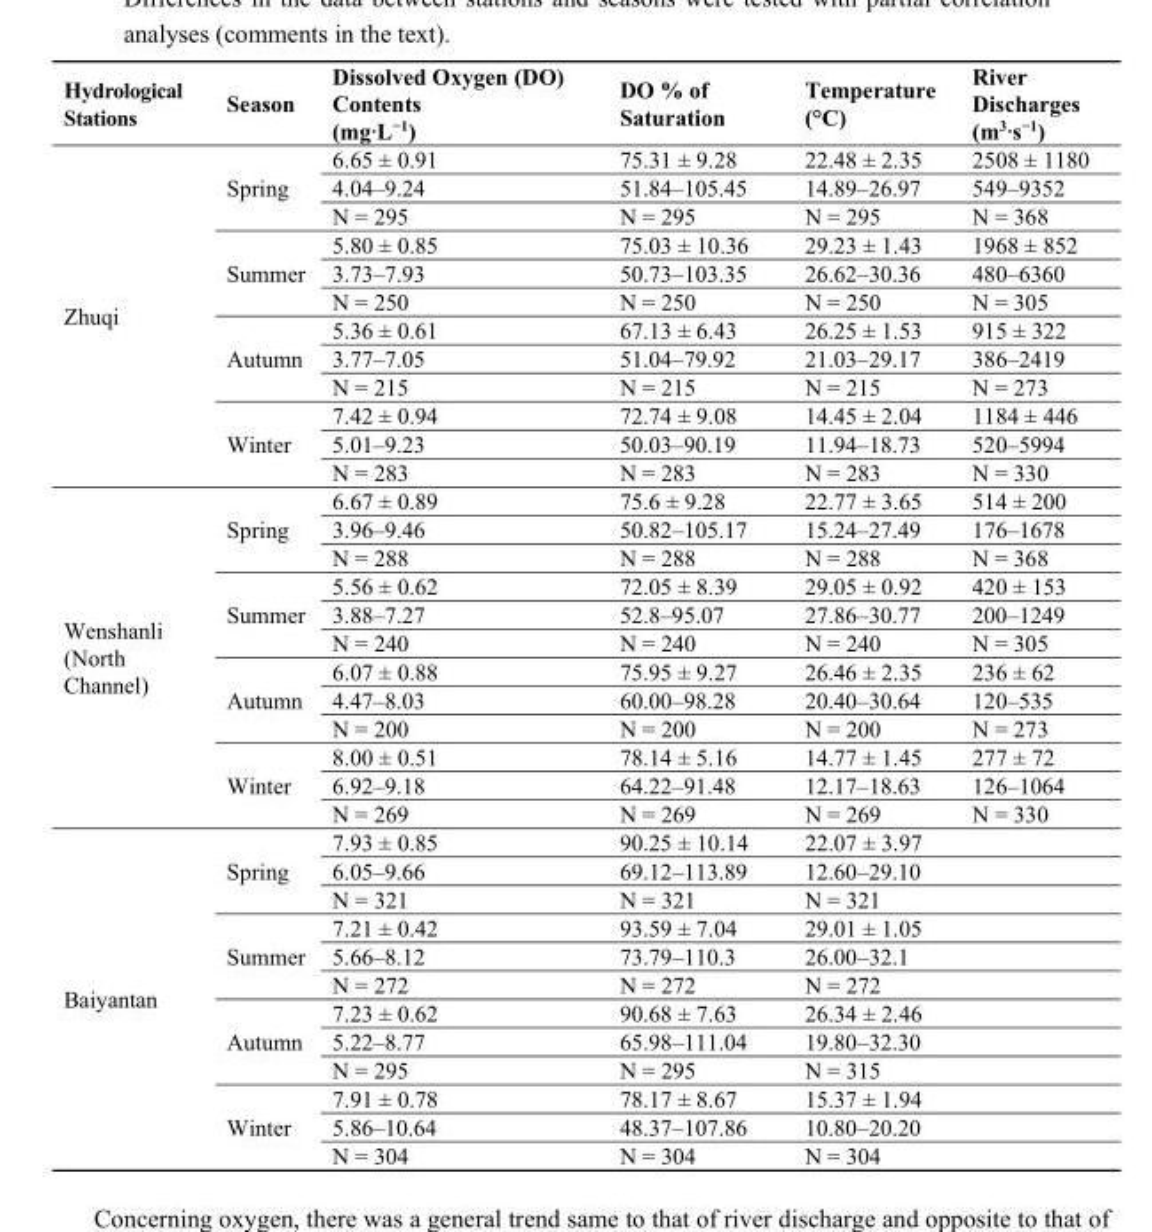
<table><thead><tr><td>Hydrological Stations</td><td>Season</td><td>Dissolved Oxygen (DO) Contents (mg·L<sup>−1</sup>)</td><td>DO % of Saturation</td><td>Temperature (°C)</td><td>River Discharges (m<sup>3</sup>·s<sup>−1</sup>)</td></tr></thead><tbody><tr><td rowspan="12">Zhuqi</td><td rowspan="3">Spring</td><td>6.65 ± 0.91</td><td>75.31 ± 9.28</td><td>22.48 ± 2.35</td><td>2508 ± 1180</td></tr><tr><td>4.04–9.24</td><td>51.84–105.45</td><td>14.89–26.97</td><td>549–9352</td></tr><tr><td>N = 295</td><td>N = 295</td><td>N = 295</td><td>N = 368</td></tr><tr><td rowspan="3">Summer</td><td>5.80 ± 0.85</td><td>75.03 ± 10.36</td><td>29.23 ± 1.43</td><td>1968 ± 852</td></tr><tr><td>3.73–7.93</td><td>50.73–103.35</td><td>26.62–30.36</td><td>480–6360</td></tr><tr><td>N = 250</td><td>N = 250</td><td>N = 250</td><td>N = 305</td></tr><tr><td rowspan="3">Autumn</td><td>5.36 ± 0.61</td><td>67.13 ± 6.43</td><td>26.25 ± 1.53</td><td>915 ± 322</td></tr><tr><td>3.77–7.05</td><td>51.04–79.92</td><td>21.03–29.17</td><td>386–2419</td></tr><tr><td>N = 215</td><td>N = 215</td><td>N = 215</td><td>N = 273</td></tr><tr><td rowspan="3">Winter</td><td>7.42 ± 0.94</td><td>72.74 ± 9.08</td><td>14.45 ± 2.04</td><td>1184 ± 446</td></tr><tr><td>5.01–9.23</td><td>50.03–90.19</td><td>11.94–18.73</td><td>520–5994</td></tr><tr><td>N = 283</td><td>N = 283</td><td>N = 283</td><td>N = 330</td></tr><tr><td rowspan="12">Wenshanli (North Channel)</td><td rowspan="3">Spring</td><td>6.67 ± 0.89</td><td>75.6 ± 9.28</td><td>22.77 ± 3.65</td><td>514 ± 200</td></tr><tr><td>3.96–9.46</td><td>50.82–105.17</td><td>15.24–27.49</td><td>176–1678</td></tr><tr><td>N = 288</td><td>N = 288</td><td>N = 288</td><td>N = 368</td></tr><tr><td rowspan="3">Summer</td><td>5.56 ± 0.62</td><td>72.05 ± 8.39</td><td>29.05 ± 0.92</td><td>420 ± 153</td></tr><tr><td>3.88–7.27</td><td>52.8–95.07</td><td>27.86–30.77</td><td>200–1249</td></tr><tr><td>N = 240</td><td>N = 240</td><td>N = 240</td><td>N = 305</td></tr><tr><td rowspan="3">Autumn</td><td>6.07 ± 0.88</td><td>75.95 ± 9.27</td><td>26.46 ± 2.35</td><td>236 ± 62</td></tr><tr><td>4.47–8.03</td><td>60.00–98.28</td><td>20.40–30.64</td><td>120–535</td></tr><tr><td>N = 200</td><td>N = 200</td><td>N = 200</td><td>N = 273</td></tr><tr><td rowspan="3">Winter</td><td>8.00 ± 0.51</td><td>78.14 ± 5.16</td><td>14.77 ± 1.45</td><td>277 ± 72</td></tr><tr><td>6.92–9.18</td><td>64.22–91.48</td><td>12.17–18.63</td><td>126–1064</td></tr><tr><td>N = 269</td><td>N = 269</td><td>N = 269</td><td>N = 330</td></tr><tr><td rowspan="12">Baiyantan</td><td rowspan="3">Spring</td><td>7.93 ± 0.85</td><td>90.25 ± 10.14</td><td>22.07 ± 3.97</td><td></td></tr><tr><td>6.05–9.66</td><td>69.12–113.89</td><td>12.60–29.10</td><td></td></tr><tr><td>N = 321</td><td>N = 321</td><td>N = 321</td><td></td></tr><tr><td rowspan="3">Summer</td><td>7.21 ± 0.42</td><td>93.59 ± 7.04</td><td>29.01 ± 1.05</td><td></td></tr><tr><td>5.66–8.12</td><td>73.79–110.3</td><td>26.00–32.1</td><td></td></tr><tr><td>N = 272</td><td>N = 272</td><td>N = 272</td><td></td></tr><tr><td rowspan="3">Autumn</td><td>7.23 ± 0.62</td><td>90.68 ± 7.63</td><td>26.34 ± 2.46</td><td></td></tr><tr><td>5.22–8.77</td><td>65.98–111.04</td><td>19.80–32.30</td><td></td></tr><tr><td>N = 295</td><td>N = 295</td><td>N = 315</td><td></td></tr><tr><td rowspan="3">Winter</td><td>7.91 ± 0.78</td><td>78.17 ± 8.67</td><td>15.37 ± 1.94</td><td></td></tr><tr><td>5.86–10.64</td><td>48.37–107.86</td><td>10.80–20.20</td><td></td></tr><tr><td>N = 304</td><td>N = 304</td><td>N = 304</td><td></td></tr></tbody></table>